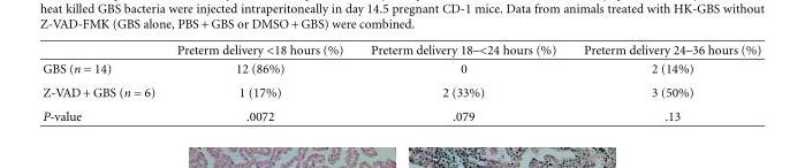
<table><thead><tr><td></td><td>Preterm delivery &lt;18 hours (%)</td><td>Preterm delivery 18–&lt;24 hours (%)</td><td>Preterm delivery 24–36 hours (%)</td></tr></thead><tbody><tr><td>GBS (n = 14)</td><td>12 (86%)</td><td>0</td><td>2 (14%)</td></tr><tr><td>Z-VAD + GBS (n = 6)</td><td>1 (17%)</td><td>2 (33%)</td><td>3 (50%)</td></tr><tr><td>P-value</td><td>.0072</td><td>.079</td><td>.13</td></tr></tbody></table>